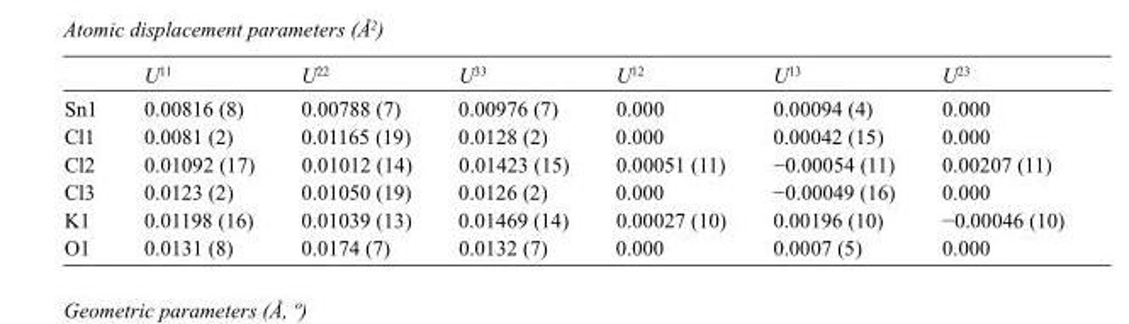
<table><thead><tr><td></td><td>U<sup>11</sup></td><td>U<sup>22</sup></td><td>U<sup>33</sup></td><td>U<sup>12</sup></td><td>U<sup>13</sup></td><td>U<sup>23</sup></td></tr></thead><tbody><tr><td>Sn1</td><td>0.00816 (8)</td><td>0.00788 (7)</td><td>0.00976 (7)</td><td>0.000</td><td>0.00094 (4)</td><td>0.000</td></tr><tr><td>Cl1</td><td>0.0081 (2)</td><td>0.01165 (19)</td><td>0.0128 (2)</td><td>0.000</td><td>0.00042 (15)</td><td>0.000</td></tr><tr><td>Cl2</td><td>0.01092 (17)</td><td>0.01012 (14)</td><td>0.01423 (15)</td><td>0.00051 (11)</td><td>−0.00054 (11)</td><td>0.00207 (11)</td></tr><tr><td>Cl3</td><td>0.0123 (2)</td><td>0.01050 (19)</td><td>0.0126 (2)</td><td>0.000</td><td>−0.00049 (16)</td><td>0.000</td></tr><tr><td>K1</td><td>0.01198 (16)</td><td>0.01039 (13)</td><td>0.01469 (14)</td><td>0.00027 (10)</td><td>0.00196 (10)</td><td>−0.00046 (10)</td></tr><tr><td>O1</td><td>0.0131 (8)</td><td>0.0174 (7)</td><td>0.0132 (7)</td><td>0.000</td><td>0.0007 (5)</td><td>0.000</td></tr></tbody></table>